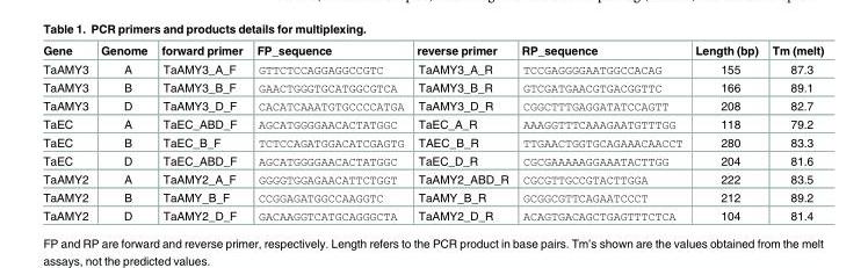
<table><thead><tr><td>Gene</td><td>Genome</td><td>forward primer</td><td>FP_sequence</td><td>reverse primer</td><td>RP_sequence</td><td>Length (bp)</td><td>Tm (melt)</td></tr></thead><tbody><tr><td>TaAMY3</td><td>A</td><td>TaAMY3_A_F</td><td>GTTCTCCAGGAGGCCGTC</td><td>TaAMY3_A_R</td><td>TCCGAGGGGAATGGCCACAG</td><td>155</td><td>87.3</td></tr><tr><td>TaAMY3</td><td>B</td><td>TaAMY3_B_F</td><td>GAACTGGGTGCATGGCGTCA</td><td>TaAMY3_B_R</td><td>GTCGATGAACGTGACGGTTC</td><td>166</td><td>89.1</td></tr><tr><td>TaAMY3</td><td>D</td><td>TaAMY3_D_F</td><td>CACATCAAATGTGCCCCATGA</td><td>TaAMY3_D_R</td><td>CGGCTTTGAGGATATCCAGTT</td><td>208</td><td>82.7</td></tr><tr><td>TaEC</td><td>A</td><td>TaEC_ABD_F</td><td>AGCATGGGGAACACTATGGC</td><td>TaEC_A_R</td><td>AAAGGTTTCAAAGAATGTTTGG</td><td>118</td><td>79.2</td></tr><tr><td>TaEC</td><td>B</td><td>TaEC_B_F</td><td>TCTCCAGATGGACATCGAGTG</td><td>TAEC_B_R</td><td>TTGAACTGGTGCAGAAACAACCT</td><td>280</td><td>83.3</td></tr><tr><td>TaEC</td><td>D</td><td>TaEC_ABD_F</td><td>AGCATGGGGAACACTATGGC</td><td>TaEC_D_R</td><td>CGCGAAAAAGGAAATACTTGG</td><td>204</td><td>81.6</td></tr><tr><td>TaAMY2</td><td>A</td><td>TaAMY2_A_F</td><td>GGGGTGGAGAACATTCTGGT</td><td>TaAMY2_ABD_R</td><td>CGCGTTGCCGTACTTGGA</td><td>222</td><td>83.5</td></tr><tr><td>TaAMY2</td><td>B</td><td>TaAMY_B_F</td><td>CCGGAGATGGCCAAGGTC</td><td>TaAMY_B_R</td><td>GCGGCGTTCAGAATCCCT</td><td>212</td><td>89.2</td></tr><tr><td>TaAMY2</td><td>D</td><td>TaAMY2_D_F</td><td>GACAAGGTCATGCAGGGCTA</td><td>TaAMY2_D_R</td><td>ACAGTGACAGCTGAGTTTCTCA</td><td>104</td><td>81.4</td></tr></tbody></table>